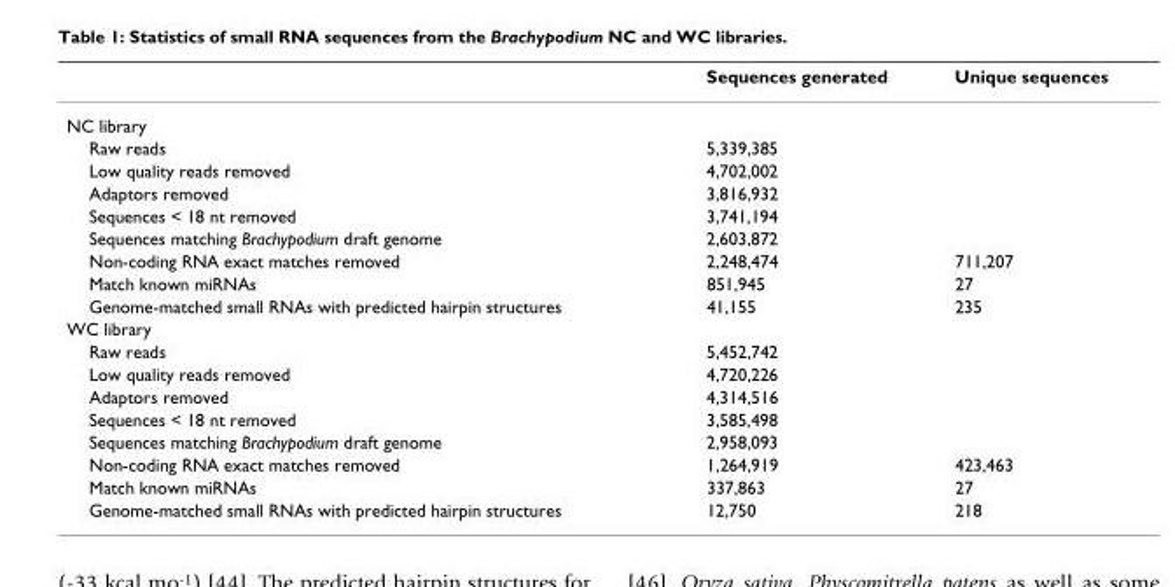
<table><thead><tr><td></td><td>Sequences generated</td><td>Unique sequences</td></tr></thead><tbody><tr><td colspan="3">NC library</td></tr><tr><td>Raw reads</td><td>5,339,385</td><td></td></tr><tr><td>Low quality reads removed</td><td>4,702,002</td><td></td></tr><tr><td>Adaptors removed</td><td>3,816,932</td><td></td></tr><tr><td>Sequences &lt; 18 nt removed</td><td>3,741,194</td><td></td></tr><tr><td>Sequences matching Brachypodium draft genome</td><td>2,603,872</td><td></td></tr><tr><td>Non-coding RNA exact matches removed</td><td>2,248,474</td><td>711,207</td></tr><tr><td>Match known miRNAs</td><td>851,945</td><td>27</td></tr><tr><td>Genome-matched small RNAs with predicted hairpin structures</td><td>41,155</td><td>235</td></tr><tr><td colspan="3">WC library</td></tr><tr><td>Raw reads</td><td>5,452,742</td><td></td></tr><tr><td>Low quality reads removed</td><td>4,720,226</td><td></td></tr><tr><td>Adaptors removed</td><td>4,314,516</td><td></td></tr><tr><td>Sequences &lt; 18 nt removed</td><td>3,585,498</td><td></td></tr><tr><td>Sequences matching Brachypodium draft genome</td><td>2,958,093</td><td></td></tr><tr><td>Non-coding RNA exact matches removed</td><td>1,264,919</td><td>423,463</td></tr><tr><td>Match known miRNAs</td><td>337,863</td><td>27</td></tr><tr><td>Genome-matched small RNAs with predicted hairpin structures</td><td>12,750</td><td>218</td></tr></tbody></table>